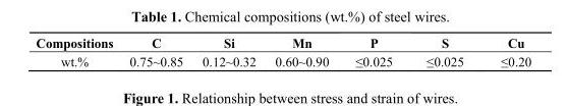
<table><thead><tr><td>Compositions</td><td>C</td><td>Si</td><td>Mn</td><td>P</td><td>S</td><td>Cu</td></tr></thead><tbody><tr><td>wt.%</td><td>0.75~0.85</td><td>0.12~0.32</td><td>0.60~0.90</td><td>≤0.025</td><td>≤0.025</td><td>≤0.20</td></tr></tbody></table>